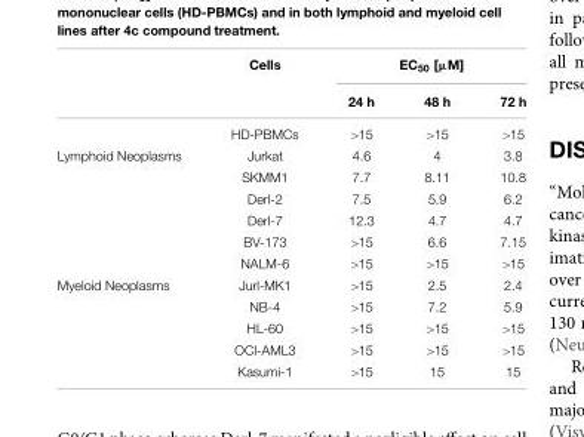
<table><thead><tr><td rowspan="2"></td><td rowspan="2">Cells</td><td colspan="3">EC<sub>50</sub> [µM]</td></tr><tr><td>24 h</td><td>48 h</td><td>72 h</td></tr></thead><tbody><tr><td></td><td>HD-PBMCs</td><td>&gt;15</td><td>&gt;15</td><td>&gt;15</td></tr><tr><td rowspan="6">Lymphoid Neoplasms</td><td>Jurkat</td><td>4.6</td><td>4</td><td>3.8</td></tr><tr><td>SKMM1</td><td>7.7</td><td>8.11</td><td>10.8</td></tr><tr><td>Derl-2</td><td>7.5</td><td>5.9</td><td>6.2</td></tr><tr><td>Derl-7</td><td>12.3</td><td>4.7</td><td>4.7</td></tr><tr><td>BV-173</td><td>&gt;15</td><td>6.6</td><td>7.15</td></tr><tr><td>NALM-6</td><td>&gt;15</td><td>&gt;15</td><td>&gt;15</td></tr><tr><td rowspan="5">Myeloid Neoplasms</td><td>Jurl-MK1</td><td>&gt;15</td><td>2.5</td><td>2.4</td></tr><tr><td>NB-4</td><td>&gt;15</td><td>7.2</td><td>5.9</td></tr><tr><td>HL-60</td><td>&gt;15</td><td>&gt;15</td><td>&gt;15</td></tr><tr><td>OCI-AML3</td><td>&gt;15</td><td>&gt;15</td><td>&gt;15</td></tr><tr><td>Kasumi-1</td><td>&gt;15</td><td>15</td><td>15</td></tr></tbody></table>